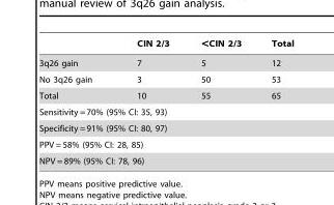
<table><thead><tr><td></td><td>CIN 2/3</td><td>&lt;CIN 2/3</td><td>Total</td></tr></thead><tbody><tr><td>3q26 gain</td><td>7</td><td>5</td><td>12</td></tr><tr><td>No 3q26 gain</td><td>3</td><td>50</td><td>53</td></tr><tr><td>Total</td><td>10</td><td>55</td><td>65</td></tr><tr><td colspan="4">Sensitivity = 70% (95% CI: 35, 93)</td></tr><tr><td colspan="4">Specificity = 91% (95% CI: 80, 97)</td></tr><tr><td colspan="4">PPV = 58% (95% CI: 28, 85)</td></tr><tr><td colspan="4">NPV = 89% (95% CI: 78, 96)</td></tr></tbody></table>